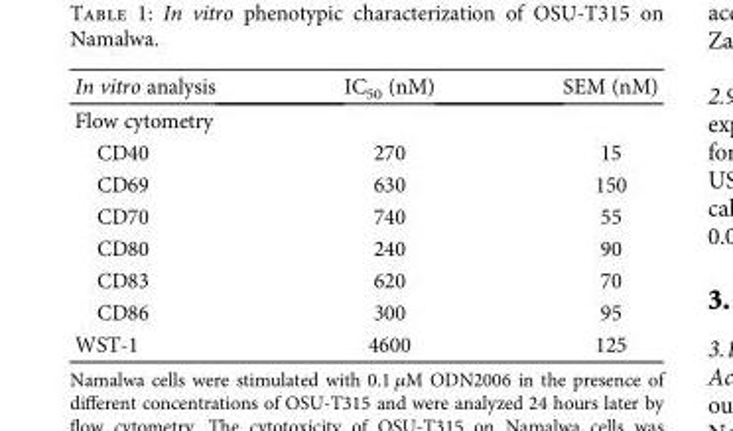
<table><thead><tr><td>In vitro analysis</td><td>IC<sub>50</sub> (nM)</td><td>SEM (nM)</td></tr></thead><tbody><tr><td colspan="3">Flow cytometry</td></tr><tr><td>CD40</td><td>270</td><td>15</td></tr><tr><td>CD69</td><td>630</td><td>150</td></tr><tr><td>CD70</td><td>740</td><td>55</td></tr><tr><td>CD80</td><td>240</td><td>90</td></tr><tr><td>CD83</td><td>620</td><td>70</td></tr><tr><td>CD86</td><td>300</td><td>95</td></tr><tr><td>WST-1</td><td>4600</td><td>125</td></tr></tbody></table>